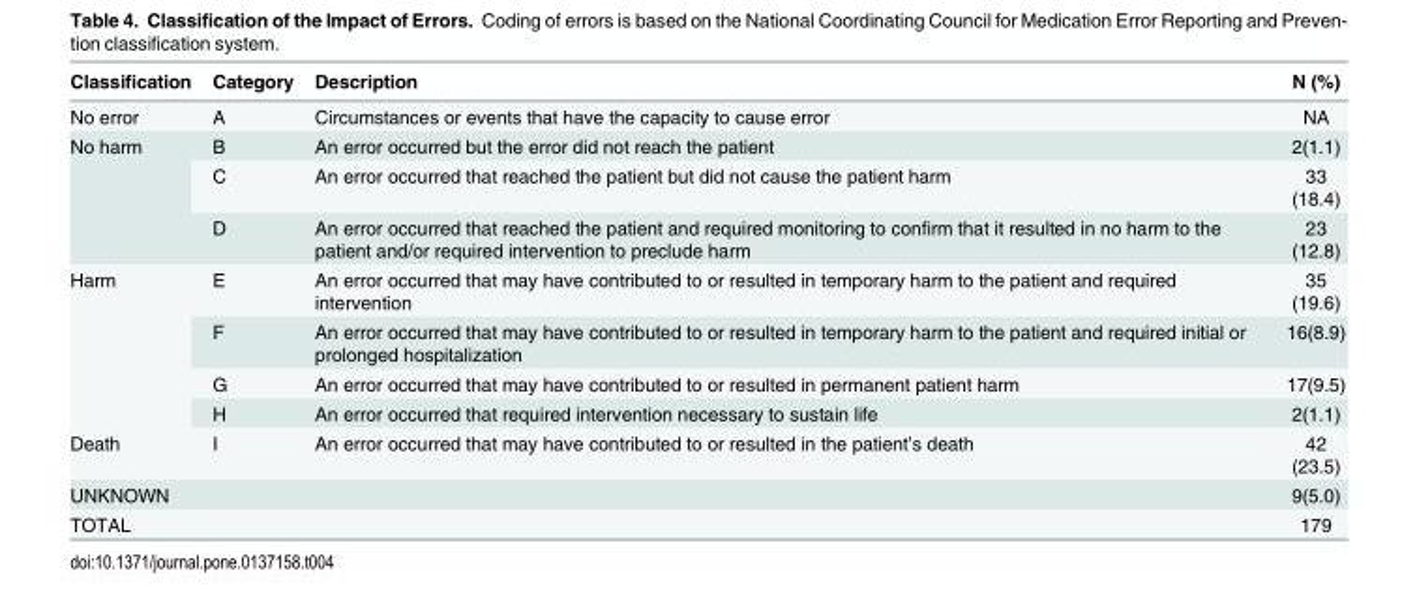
<table><thead><tr><td>Classification</td><td>Category</td><td>Description</td><td>N (%)</td></tr></thead><tbody><tr><td>No error</td><td>A</td><td>Circumstances or events that have the capacity to cause error</td><td>NA</td></tr><tr><td rowspan="3">No harm</td><td>B</td><td>An error occurred but the error did not reach the patient</td><td>2(1.1)</td></tr><tr><td>C</td><td>An error occurred that reached the patient but did not cause the patient harm</td><td>33 (18.4)</td></tr><tr><td>D</td><td>An error occurred that reached the patient and required monitoring to confirm that it resulted in no harm to the patient and/or required intervention to preclude harm</td><td>23 (12.8)</td></tr><tr><td rowspan="4">Harm</td><td>E</td><td>An error occurred that may have contributed to or resulted in temporary harm to the patient and required intervention</td><td>35 (19.6)</td></tr><tr><td>F</td><td>An error occurred that may have contributed to or resulted in temporary harm to the patient and required initial or prolonged hospitalization</td><td>16(8.9)</td></tr><tr><td>G</td><td>An error occurred that may have contributed to or resulted in permanent patient harm</td><td>17(9.5)</td></tr><tr><td>H</td><td>An error occurred that required intervention necessary to sustain life</td><td>2(1.1)</td></tr><tr><td>Death</td><td>I</td><td>An error occurred that may have contributed to or resulted in the patient’s death</td><td>42 (23.5)</td></tr><tr><td>UNKNOWN</td><td></td><td></td><td>9(5.0)</td></tr><tr><td>TOTAL</td><td></td><td></td><td>179</td></tr></tbody></table>